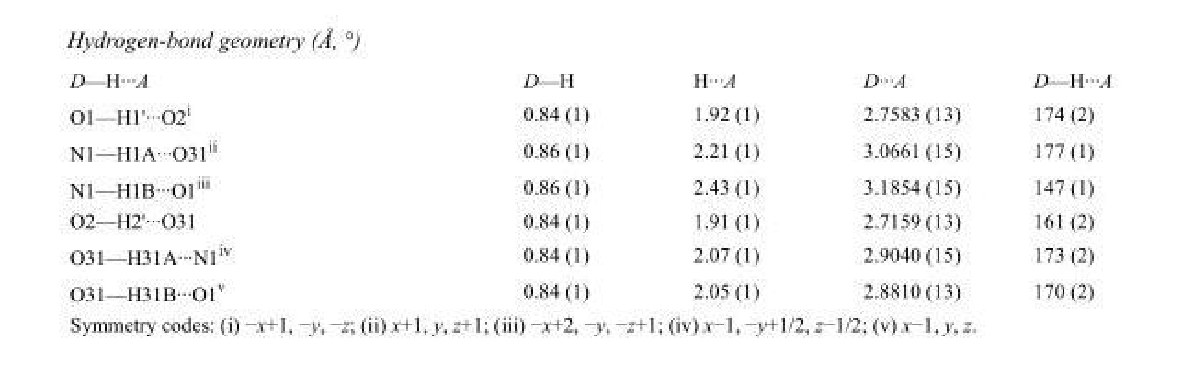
<table><tbody><tr><td>D—H···A</td><td>D—H</td><td>H···A</td><td>D···A</td><td>D—H···A</td></tr><tr><td>O1—H1&#x27;···O2<sup>i</sup></td><td>0.84 (1)</td><td>1.92 (1)</td><td>2.7583 (13)</td><td>174 (2)</td></tr><tr><td>N1—H1A···O31<sup>ii</sup></td><td>0.86 (1)</td><td>2.21 (1)</td><td>3.0661 (15)</td><td>177 (1)</td></tr><tr><td>N1—H1B···O1<sup>iii</sup></td><td>0.86 (1)</td><td>2.43 (1)</td><td>3.1854 (15)</td><td>147 (1)</td></tr><tr><td>O2—H2&#x27;···O31</td><td>0.84 (1)</td><td>1.91 (1)</td><td>2.7159 (13)</td><td>161 (2)</td></tr><tr><td>O31—H31A···N1<sup>iv</sup></td><td>0.84 (1)</td><td>2.07 (1)</td><td>2.9040 (15)</td><td>173 (2)</td></tr><tr><td>O31—H31B···O1<sup>v</sup></td><td>0.84 (1)</td><td>2.05 (1)</td><td>2.8810 (13)</td><td>170 (2)</td></tr></tbody></table>